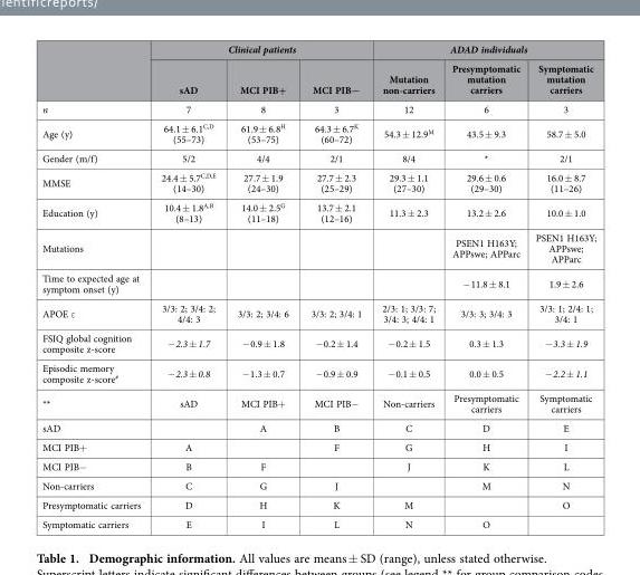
<table><thead><tr><td rowspan="2"></td><td colspan="3">Clinical patients</td><td colspan="3">ADAD individuals</td></tr><tr><td>sAD</td><td>MCI PIB+</td><td>MCI PIB−</td><td>Mutation non-carriers</td><td>Presymptomatic mutation carriers</td><td>Symptomatic mutation carriers</td></tr></thead><tbody><tr><td>n</td><td>7</td><td>8</td><td>3</td><td>12</td><td>6</td><td>3</td></tr><tr><td>Age (y)</td><td>64.1 ± 6.1<sup>C,D</sup> (55–73)</td><td>61.9 ± 6.8<sup>H</sup> (53–75)</td><td>64.3 ± 6.7<sup>K</sup> (60–72)</td><td>54.3 ± 12.9<sup>M</sup></td><td>43.5 ± 9.3</td><td>58.7 ± 5.0</td></tr><tr><td>Gender (m/f)</td><td>5/2</td><td>4/4</td><td>2/1</td><td>8/4</td><td>*</td><td>2/1</td></tr><tr><td>MMSE</td><td>24.4 ± 5.7<sup>C,D,E</sup> (14–30)</td><td>27.7 ± 1.9 (24–30)</td><td>27.7 ± 2.3 (25–29)</td><td>29.3 ± 1.1 (27–30)</td><td>29.6 ± 0.6 (29–30)</td><td>16.0 ± 8.7 (11–26)</td></tr><tr><td>Education (y)</td><td>10.4 ± 1.8<sup>A,B</sup> (8–13)</td><td>14.0 ± 2.5<sup>G</sup> (11–18)</td><td>13.7 ± 2.1 (12–16)</td><td>11.3 ± 2.3</td><td>13.2 ± 2.6</td><td>10.0 ± 1.0</td></tr><tr><td>Mutations</td><td></td><td></td><td></td><td></td><td>PSEN1 H163Y; APPswe; APParc</td><td>PSEN1 H163Y; APPswe; APParc</td></tr><tr><td>Time to expected age at symptom onset (y)</td><td></td><td></td><td></td><td></td><td>− 11.8 ± 8.1</td><td>1.9 ± 2.6</td></tr><tr><td>APOE ε</td><td>3/3: 2; 3/4: 2; 4/4: 3</td><td>3/3: 2; 3/4: 6</td><td>3/3: 2; 3/4: 1</td><td>2/3: 1; 3/3: 7; 3/4: 3; 4/4: 1</td><td>3/3: 3; 3/4: 3</td><td>3/3: 1; 2/4: 1; 3/4: 1</td></tr><tr><td>FSIQ global cognition composite z-score</td><td>− 2.3 ± 1.7</td><td>− 0.9 ± 1.8</td><td>− 0.2 ± 1.4</td><td>− 0.2 ± 1.5</td><td>0.3 ± 1.3</td><td>− 3.3 ± 1.9</td></tr><tr><td>Episodic memory composite z-score<sup>#</sup></td><td>− 2.3 ± 0.8</td><td>− 1.3 ± 0.7</td><td>− 0.9 ± 0.9</td><td>− 0.1 ± 0.5</td><td>0.0 ± 0.5</td><td>− 2.2 ± 1.1</td></tr><tr><td>**</td><td>sAD</td><td>MCI PIB+</td><td>MCI PIB−</td><td>Non-carriers</td><td>Presymptomatic carriers</td><td>Symptomatic carriers</td></tr><tr><td>sAD</td><td></td><td>A</td><td>B</td><td>C</td><td>D</td><td>E</td></tr><tr><td>MCI PIB+</td><td>A</td><td></td><td>F</td><td>G</td><td>H</td><td>I</td></tr><tr><td>MCI PIB−</td><td>B</td><td>F</td><td></td><td>J</td><td>K</td><td>L</td></tr><tr><td>Non-carriers</td><td>C</td><td>G</td><td>J</td><td></td><td>M</td><td>N</td></tr><tr><td>Presymptomatic carriers</td><td>D</td><td>H</td><td>K</td><td>M</td><td></td><td>O</td></tr><tr><td>Symptomatic carriers</td><td>E</td><td>I</td><td>L</td><td>N</td><td>O</td><td></td></tr></tbody></table>